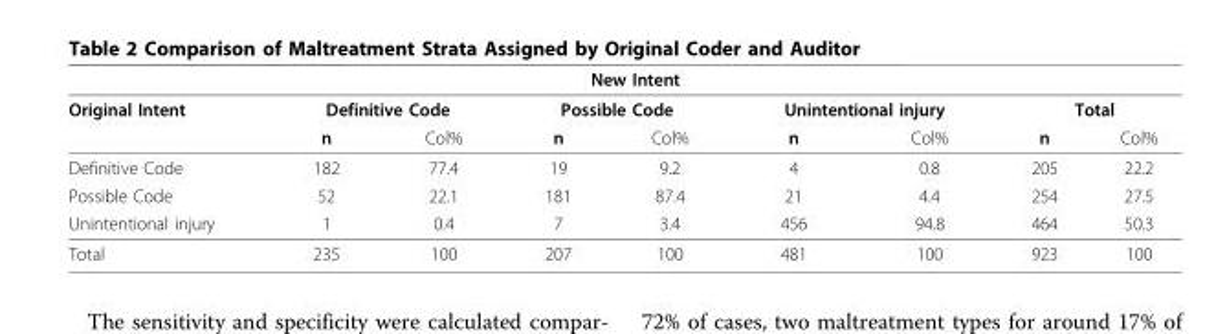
<table><thead><tr><td rowspan="3">Original Intent</td><td colspan="6">New Intent</td><td></td><td></td></tr><tr><td colspan="2">Definitive Code</td><td colspan="2">Possible Code</td><td colspan="2">Unintentional injury</td><td colspan="2">Total</td></tr><tr><td>n</td><td>Col%</td><td>n</td><td>Col%</td><td>n</td><td>Col%</td><td>n</td><td>Col%</td></tr></thead><tbody><tr><td>Definitive Code</td><td>182</td><td>77.4</td><td>19</td><td>9.2</td><td>4</td><td>0.8</td><td>205</td><td>22.2</td></tr><tr><td>Possible Code</td><td>52</td><td>22.1</td><td>181</td><td>87.4</td><td>21</td><td>4.4</td><td>254</td><td>27.5</td></tr><tr><td>Unintentional injury</td><td>1</td><td>0.4</td><td>7</td><td>3.4</td><td>456</td><td>94.8</td><td>464</td><td>50.3</td></tr><tr><td>Total</td><td>235</td><td>100</td><td>207</td><td>100</td><td>481</td><td>100</td><td>923</td><td>100</td></tr></tbody></table>